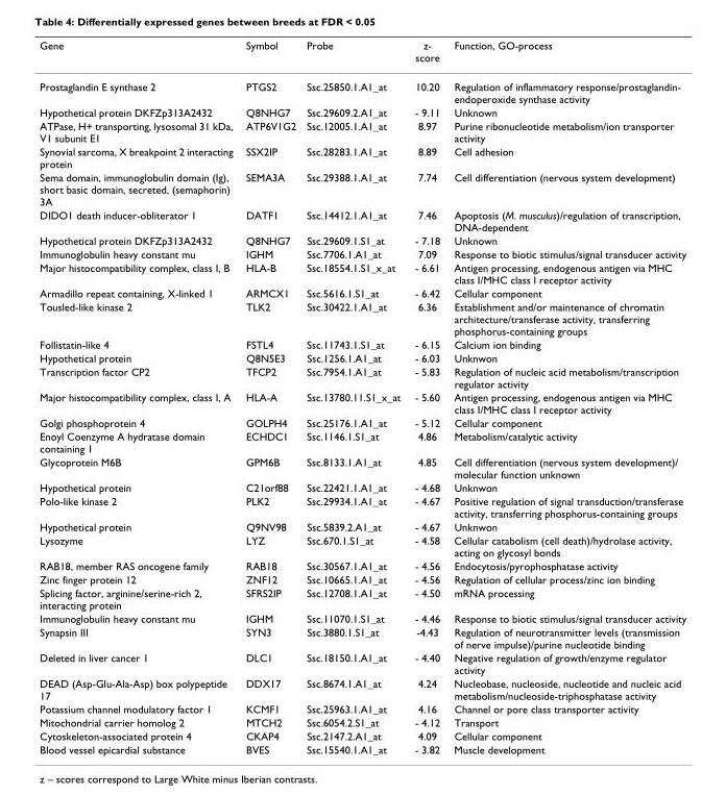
<table><thead><tr><td>Gene</td><td>Symbol</td><td>Probe</td><td>z- score</td><td>Function, GO-process</td></tr></thead><tbody><tr><td>Prostaglandin E synthase 2</td><td>PTGS2</td><td>Ssc.25850.1.A1_at</td><td>10.20</td><td>Regulation of inflammatory response/prostaglandin- endoperoxide synthase activity</td></tr><tr><td>Hypothetical protein DKFZp313A2432</td><td>Q8NHG7</td><td>Ssc.29609.2.A1_at</td><td>- 9.11</td><td>Unknown</td></tr><tr><td>ATPase, H+ transporting, lysosomal 31 kDa, V1 subunit E1</td><td>ATP6V1G2</td><td>Ssc.12005.1.A1_at</td><td>8.97</td><td>Purine ribonucleotide metabolism/ion transporter activity</td></tr><tr><td>Synovial sarcoma, X breakpoint 2 interacting protein</td><td>SSX2IP</td><td>Ssc.28283.1.A1_at</td><td>8.89</td><td>Cell adhesion</td></tr><tr><td>Sema domain, immunoglobulin domain (Ig), short basic domain, secreted, (semaphorin) 3A</td><td>SEMA3A</td><td>Ssc.29388.1.A1_at</td><td>7.74</td><td>Cell differentiation (nervous system development)</td></tr><tr><td>DIDO1 death inducer-obliterator 1</td><td>DATF1</td><td>Ssc.14412.1.A1_at</td><td>7.46</td><td>Apoptosis (M. musculus)/regulation of transcription, DNA-dependent</td></tr><tr><td>Hypothetical protein DKFZp313A2432</td><td>Q8NHG7</td><td>Ssc.29609.1.S1_at</td><td>- 7.18</td><td>Unknown</td></tr><tr><td>Immunoglobulin heavy constant mu</td><td>IGHM</td><td>Ssc.7706.1.A1_at</td><td>7.09</td><td>Response to biotic stimulus/signal transducer activity</td></tr><tr><td>Major histocompatibility complex, class I, B</td><td>HLA-B</td><td>Ssc.18554.1.S1_x_at</td><td>- 6.61</td><td>Antigen processing, endogenous antigen via MHC class I/MHC class I receptor activity</td></tr><tr><td>Armadillo repeat containing, X-linked 1</td><td>ARMCX1</td><td>Ssc.5616.1.S1_at</td><td>- 6.42</td><td>Cellular component</td></tr><tr><td>Tousled-like kinase 2</td><td>TLK2</td><td>Ssc.30422.1.A1_at</td><td>6.36</td><td>Establishment and/or maintenance of chromatin architecture/transferase activity, transferring phosphorus-containing groups</td></tr><tr><td>Follistatin-like 4</td><td>FSTL4</td><td>Ssc.11743.1.S1_at</td><td>- 6.15</td><td>Calcium ion binding</td></tr><tr><td>Hypothetical protein</td><td>Q8N5E3</td><td>Ssc.1256.1.A1_at</td><td>- 6.03</td><td>Unknwon</td></tr><tr><td>Transcription factor CP2</td><td>TFCP2</td><td>Ssc.7954.1.A1_at</td><td>- 5.83</td><td>Regulation of nucleic acid metabolism/transcription regulator activity</td></tr><tr><td>Major histocompatibility complex, class I, A</td><td>HLA-A</td><td>Ssc.13780.11.S1_x_at</td><td>- 5.60</td><td>Antigen processing, endogenous antigen via MHC class I/MHC class I receptor activity</td></tr><tr><td>Golgi phosphoprotein 4</td><td>GOLPH4</td><td>Ssc.25176.1.A1_at</td><td>- 5.12</td><td>Cellular component</td></tr><tr><td>Enoyl Coenzyme A hydratase domain containing 1</td><td>ECHDC1</td><td>Ssc.1146.1.S1_at</td><td>4.86</td><td>Metabolism/catalytic activity</td></tr><tr><td>Glycoprotein M6B</td><td>GPM6B</td><td>Ssc.8133.1.A1_at</td><td>4.85</td><td>Cell differentiation (nervous system development)/ molecular function unknown</td></tr><tr><td>Hypothetical protein</td><td>C21orf88</td><td>Ssc.22421.1.A1_at</td><td>- 4.68</td><td>Unknwon</td></tr><tr><td>Polo-like kinase 2</td><td>PLK2</td><td>Ssc.29934.1.A1_at</td><td>- 4.67</td><td>Positive regulation of signal transduction/transferase activity, transferring phosphorus-containing groups</td></tr><tr><td>Hypothetical protein</td><td>Q9NV98</td><td>Ssc.5839.2.A1_at</td><td>- 4.67</td><td>Unknwon</td></tr><tr><td>Lysozyme</td><td>LYZ</td><td>Ssc.670.1.S1_at</td><td>- 4.58</td><td>Cellular catabolism (cell death)/hydrolase activity, acting on glycosyl bonds</td></tr><tr><td>RAB18, member RAS oncogene family</td><td>RAB18</td><td>Ssc.30567.1.A1_at</td><td>- 4.56</td><td>Endocytosis/pyrophosphatase activity</td></tr><tr><td>Zinc finger protein 12</td><td>ZNF12</td><td>Ssc.10665.1.A1_at</td><td>- 4.56</td><td>Regulation of cellular process/zinc ion binding</td></tr><tr><td>Splicing factor, arginine/serine-rich 2, interacting protein</td><td>SFRS2IP</td><td>Ssc.12708.1.A1_at</td><td>- 4.50</td><td>mRNA processing</td></tr><tr><td>Immunoglobulin heavy constant mu</td><td>IGHM</td><td>Ssc.11070.1.S1_at</td><td>- 4.46</td><td>Response to biotic stimulus/signal transducer activity</td></tr><tr><td>Synapsin III</td><td>SYN3</td><td>Ssc.3880.1.S1_at</td><td>-4.43</td><td>Regulation of neurotransmitter levels (transmission of nerve impulse)/purine nucleotide binding</td></tr><tr><td>Deleted in liver cancer 1</td><td>DLC1</td><td>Ssc.18150.1.A1_at</td><td>- 4.40</td><td>Negative regulation of growth/enzyme regulator activity</td></tr><tr><td>DEAD (Asp-Glu-Ala-Asp) box polypeptide 17</td><td>DDX17</td><td>Ssc.8674.1.A1_at</td><td>4.24</td><td>Nucleobase, nucleoside, nucleotide and nucleic acid metabolism/nucleoside-triphosphatase activity</td></tr><tr><td>Potassium channel modulatory factor 1</td><td>KCMF1</td><td>Ssc.25963.1.A1_at</td><td>4.16</td><td>Channel or pore class transporter activity</td></tr><tr><td>Mitochondrial carrier homolog 2</td><td>MTCH2</td><td>Ssc.6054.2.S1_at</td><td>- 4.12</td><td>Transport</td></tr><tr><td>Cytoskeleton-associated protein 4</td><td>CKAP4</td><td>Ssc.2147.2.A1_at</td><td>4.09</td><td>Cellular component</td></tr><tr><td>Blood vessel epicardial substance</td><td>BVES</td><td>Ssc.15540.1.A1_at</td><td>- 3.82</td><td>Muscle development</td></tr></tbody></table>